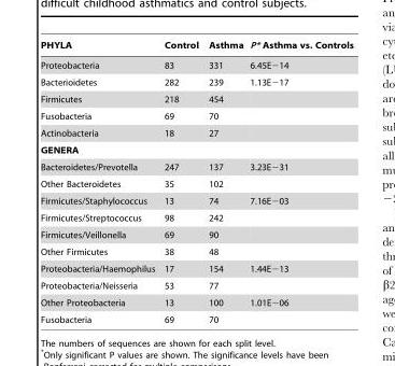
<table><thead><tr><td>PHYLA</td><td>Control</td><td>Asthma</td><td>P* Asthma vs. Controls</td></tr></thead><tbody><tr><td>Proteobacteria</td><td>83</td><td>331</td><td>6.45E−14</td></tr><tr><td>Bacterioidetes</td><td>282</td><td>239</td><td>1.13E−17</td></tr><tr><td>Firmicutes</td><td>218</td><td>454</td><td></td></tr><tr><td>Fusobacteria</td><td>69</td><td>70</td><td></td></tr><tr><td>Actinobacteria</td><td>18</td><td>27</td><td></td></tr><tr><td colspan="4">GENERA</td></tr><tr><td>Bacteroidetes/Prevotella</td><td>247</td><td>137</td><td>3.23E−31</td></tr><tr><td>Other Bacteroidetes</td><td>35</td><td>102</td><td></td></tr><tr><td>Firmicutes/Staphylococcus</td><td>13</td><td>74</td><td>7.16E−03</td></tr><tr><td>Firmicutes/Streptococcus</td><td>98</td><td>242</td><td></td></tr><tr><td>Firmicutes/Veillonella</td><td>69</td><td>90</td><td></td></tr><tr><td>Other Firmicutes</td><td>38</td><td>48</td><td></td></tr><tr><td>Proteobacteria/Haemophilus</td><td>17</td><td>154</td><td>1.44E−13</td></tr><tr><td>Proteobacteria/Neisseria</td><td>53</td><td>77</td><td></td></tr><tr><td>Other Proteobacteria</td><td>13</td><td>100</td><td>1.01E−06</td></tr><tr><td>Fusobacteria</td><td>69</td><td>70</td><td></td></tr></tbody></table>